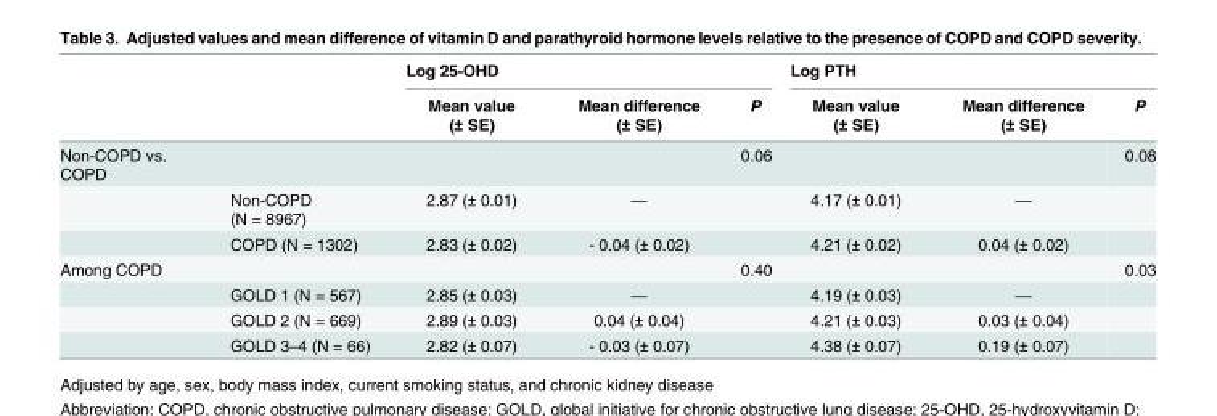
<table><thead><tr><td rowspan="2"></td><td rowspan="2"></td><td colspan="3">Log 25-OHD</td><td colspan="3">Log PTH</td></tr><tr><td>Mean value (± SE)</td><td>Mean difference (± SE)</td><td>P</td><td>Mean value (± SE)</td><td>Mean difference (± SE)</td><td>P</td></tr></thead><tbody><tr><td rowspan="3">Non-COPD vs. COPD</td><td></td><td></td><td></td><td>0.06</td><td></td><td></td><td>0.08</td></tr><tr><td>Non-COPD (N = 8967)</td><td>2.87 (± 0.01)</td><td>―</td><td></td><td>4.17 (± 0.01)</td><td>―</td><td></td></tr><tr><td>COPD (N = 1302)</td><td>2.83 (± 0.02)</td><td>- 0.04 (± 0.02)</td><td></td><td>4.21 (± 0.02)</td><td>0.04 (± 0.02)</td><td></td></tr><tr><td rowspan="4">Among COPD</td><td></td><td></td><td></td><td>0.40</td><td></td><td></td><td>0.03</td></tr><tr><td>GOLD 1 (N = 567)</td><td>2.85 (± 0.03)</td><td>―</td><td></td><td>4.19 (± 0.03)</td><td>―</td><td></td></tr><tr><td>GOLD 2 (N = 669)</td><td>2.89 (± 0.03)</td><td>0.04 (± 0.04)</td><td></td><td>4.21 (± 0.03)</td><td>0.03 (± 0.04)</td><td></td></tr><tr><td>GOLD 3–4 (N = 66)</td><td>2.82 (± 0.07)</td><td>- 0.03 (± 0.07)</td><td></td><td>4.38 (± 0.07)</td><td>0.19 (± 0.07)</td><td></td></tr></tbody></table>